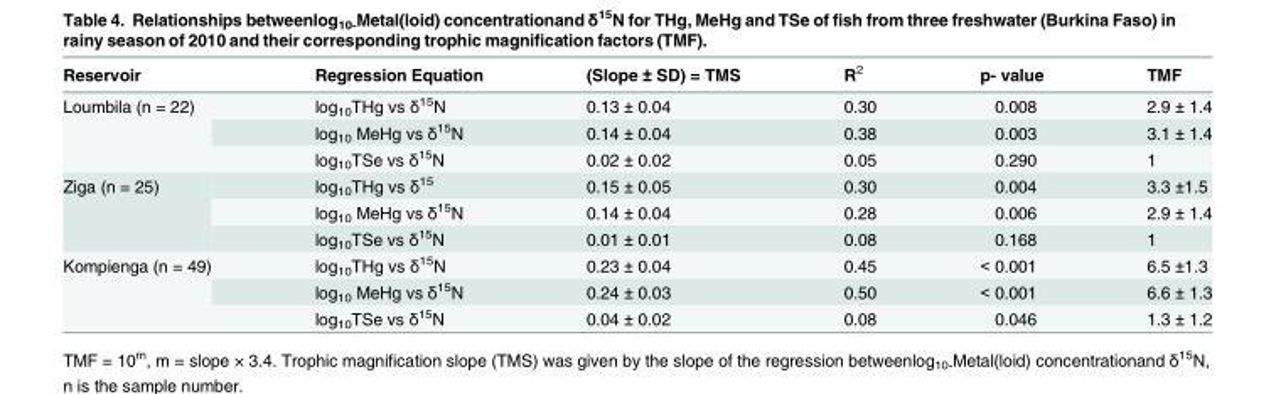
<table><thead><tr><td>Reservoir</td><td>Regression Equation</td><td>(Slope ± SD) = TMS</td><td>R<sup>2</sup></td><td>p- value</td><td>TMF</td></tr></thead><tbody><tr><td rowspan="3">Loumbila (n = 22)</td><td>log<sub>10</sub>THg vs δ<sup>15</sup>N</td><td>0.13 ± 0.04</td><td>0.30</td><td>0.008</td><td>2.9 ± 1.4</td></tr><tr><td>log<sub>10</sub> MeHg vs δ<sup>15</sup>N</td><td>0.14 ± 0.04</td><td>0.38</td><td>0.003</td><td>3.1 ± 1.4</td></tr><tr><td>log<sub>10</sub>TSe vs δ<sup>15</sup>N</td><td>0.02 ± 0.02</td><td>0.05</td><td>0.290</td><td>1</td></tr><tr><td rowspan="3">Ziga (n = 25)</td><td>log<sub>10</sub>THg vs δ<sup>15</sup></td><td>0.15 ± 0.05</td><td>0.30</td><td>0.004</td><td>3.3 ±1.5</td></tr><tr><td>log<sub>10</sub> MeHg vs δ<sup>15</sup>N</td><td>0.14 ± 0.04</td><td>0.28</td><td>0.006</td><td>2.9 ± 1.4</td></tr><tr><td>log<sub>10</sub>TSe vs δ<sup>15</sup>N</td><td>0.01 ± 0.01</td><td>0.08</td><td>0.168</td><td>1</td></tr><tr><td rowspan="3">Kompienga (n = 49)</td><td>log<sub>10</sub>THg vs δ<sup>15</sup>N</td><td>0.23 ± 0.04</td><td>0.45</td><td>&lt; 0.001</td><td>6.5 ±1.3</td></tr><tr><td>log<sub>10</sub> MeHg vs δ<sup>15</sup>N</td><td>0.24 ± 0.03</td><td>0.50</td><td>&lt; 0.001</td><td>6.6 ± 1.3</td></tr><tr><td>log<sub>10</sub>TSe vs δ<sup>15</sup>N</td><td>0.04 ± 0.02</td><td>0.08</td><td>0.046</td><td>1.3 ± 1.2</td></tr></tbody></table>